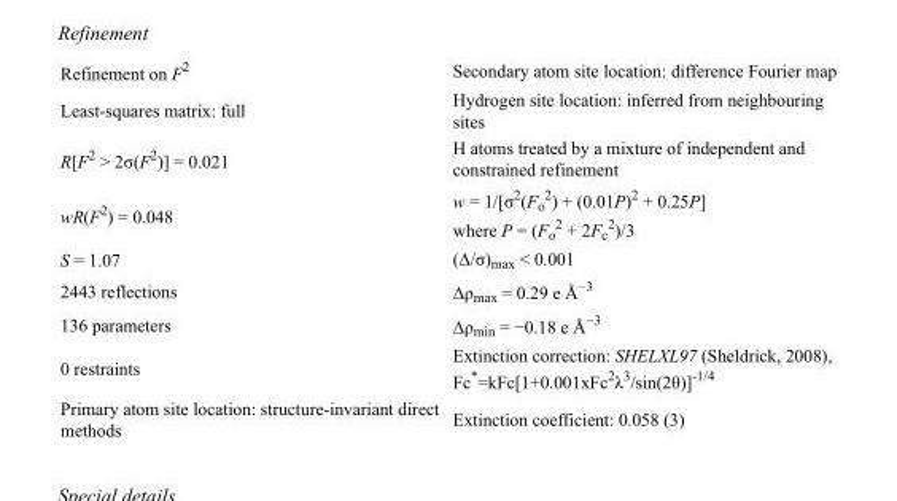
<table><tbody><tr><td>Refinement on F<sup>2</sup></td><td>Secondary atom site location: difference Fourier map</td></tr><tr><td>Least-squares matrix: full</td><td>Hydrogen site location: inferred from neighbouring sites</td></tr><tr><td>R[F<sup>2</sup> &gt; 2σ(F<sup>2</sup>)] = 0.021</td><td>H atoms treated by a mixture of independent and constrained refinement</td></tr><tr><td>wR(F<sup>2</sup>) = 0.048</td><td>w = 1/[σ<sup>2</sup>(F<sub>o</sub> <sup>2</sup>) + (0.01P)<sup>2</sup> + 0.25P] where P = (F<sub>o</sub> <sup>2</sup> + 2F<sub>c</sub> <sup>2</sup>)/3</td></tr><tr><td>S = 1.07</td><td>(Δ/σ)<sub>max</sub> &lt; 0.001</td></tr><tr><td>2443 reflections</td><td>Δρ<sub>max</sub> = 0.29 e Å<sup>−3</sup></td></tr><tr><td>136 parameters</td><td>Δρ<sub>min</sub> = −0.18 e Å<sup>−3</sup></td></tr><tr><td>0 restraints</td><td>Extinction correction: SHELXL97 (Sheldrick, 2008), Fc*=kFc[1+0.001xFc<sup>2</sup>λ<sup>3</sup>/sin(2θ)]<sup>-1/4</sup></td></tr><tr><td>Primary atom site location: structure-invariant direct methods</td><td>Extinction coefficient: 0.058 (3)</td></tr></tbody></table>